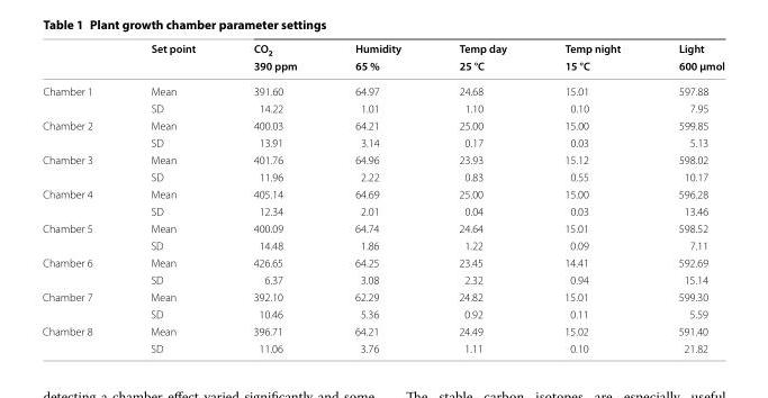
<table><thead><tr><td rowspan="2"></td><td rowspan="2">Set point</td><td rowspan="2">CO<sub>2</sub> 390 ppm</td><td rowspan="2">Humidity 65 %</td><td rowspan="2">Temp day 25 °C</td><td rowspan="2">Temp night 15 °C</td><td rowspan="2">Light 600 µmol</td></tr><tr></tr></thead><tbody><tr><td rowspan="2">Chamber 1</td><td>Mean</td><td>391.60</td><td>64.97</td><td>24.68</td><td>15.01</td><td>597.88</td></tr><tr><td>SD</td><td>14.22</td><td>1.01</td><td>1.10</td><td>0.10</td><td>7.95</td></tr><tr><td rowspan="2">Chamber 2</td><td>Mean</td><td>400.03</td><td>64.21</td><td>25.00</td><td>15.00</td><td>599.85</td></tr><tr><td>SD</td><td>13.91</td><td>3.14</td><td>0.17</td><td>0.03</td><td>5.13</td></tr><tr><td rowspan="2">Chamber 3</td><td>Mean</td><td>401.76</td><td>64.96</td><td>23.93</td><td>15.12</td><td>598.02</td></tr><tr><td>SD</td><td>11.96</td><td>2.22</td><td>0.83</td><td>0.55</td><td>10.17</td></tr><tr><td rowspan="2">Chamber 4</td><td>Mean</td><td>405.14</td><td>64.69</td><td>25.00</td><td>15.00</td><td>596.28</td></tr><tr><td>SD</td><td>12.34</td><td>2.01</td><td>0.04</td><td>0.03</td><td>13.46</td></tr><tr><td rowspan="2">Chamber 5</td><td>Mean</td><td>400.09</td><td>64.74</td><td>24.64</td><td>15.01</td><td>598.52</td></tr><tr><td>SD</td><td>14.48</td><td>1.86</td><td>1.22</td><td>0.09</td><td>7.11</td></tr><tr><td rowspan="2">Chamber 6</td><td>Mean</td><td>426.65</td><td>64.25</td><td>23.45</td><td>14.41</td><td>592.69</td></tr><tr><td>SD</td><td>6.37</td><td>3.08</td><td>2.32</td><td>0.94</td><td>15.14</td></tr><tr><td rowspan="2">Chamber 7</td><td>Mean</td><td>392.10</td><td>62.29</td><td>24.82</td><td>15.01</td><td>599.30</td></tr><tr><td>SD</td><td>10.46</td><td>5.36</td><td>0.92</td><td>0.11</td><td>5.59</td></tr><tr><td rowspan="2">Chamber 8</td><td>Mean</td><td>396.71</td><td>64.21</td><td>24.49</td><td>15.02</td><td>591.40</td></tr><tr><td>SD</td><td>11.06</td><td>3.76</td><td>1.11</td><td>0.10</td><td>21.82</td></tr></tbody></table>